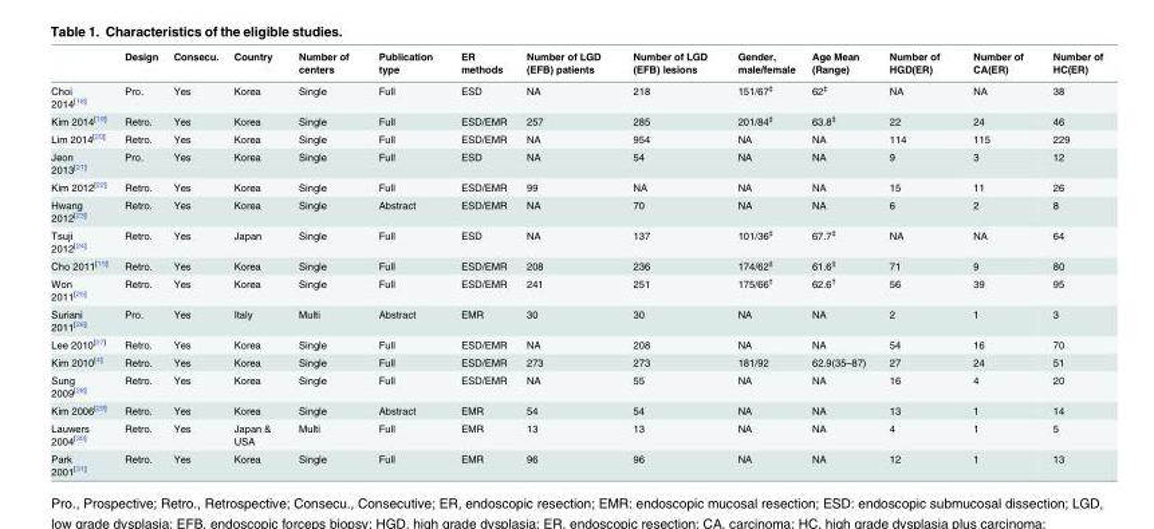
<table><thead><tr><td></td><td>Design</td><td>Consecu.</td><td>Country</td><td>Number of centers</td><td>Publication type</td><td>ER methods</td><td>Number of LGD (EFB) patients</td><td>Number of LGD (EFB) lesions</td><td>Gender, male/female</td><td>Age Mean (Range)</td><td>Number of HGD(ER)</td><td>Number of CA(ER)</td><td>Number of HC(ER)</td></tr></thead><tbody><tr><td>Choi 2014<sup>[18]</sup></td><td>Pro.</td><td>Yes</td><td>Korea</td><td>Single</td><td>Full</td><td>ESD</td><td>NA</td><td>218</td><td>151/67<sup>‡</sup></td><td>62<sup>‡</sup></td><td>NA</td><td>NA</td><td>38</td></tr><tr><td>Kim 2014<sup>[19]</sup></td><td>Retro.</td><td>Yes</td><td>Korea</td><td>Single</td><td>Full</td><td>ESD/EMR</td><td>257</td><td>285</td><td>201/84<sup>‡</sup></td><td>63.8<sup>‡</sup></td><td>22</td><td>24</td><td>46</td></tr><tr><td>Lim 2014<sup>[20]</sup></td><td>Retro.</td><td>Yes</td><td>Korea</td><td>Single</td><td>Full</td><td>ESD/EMR</td><td>NA</td><td>954</td><td>NA</td><td>NA</td><td>114</td><td>115</td><td>229</td></tr><tr><td>Jeon 2013<sup>[21]</sup></td><td>Pro.</td><td>Yes</td><td>Korea</td><td>Single</td><td>Full</td><td>ESD</td><td>NA</td><td>54</td><td>NA</td><td>NA</td><td>9</td><td>3</td><td>12</td></tr><tr><td>Kim 2012<sup>[22]</sup></td><td>Retro.</td><td>Yes</td><td>Korea</td><td>Single</td><td>Full</td><td>ESD/EMR</td><td>99</td><td>NA</td><td>NA</td><td>NA</td><td>15</td><td>11</td><td>26</td></tr><tr><td>Hwang 2012<sup>[23]</sup></td><td>Retro.</td><td>Yes</td><td>Korea</td><td>Single</td><td>Abstract</td><td>ESD/EMR</td><td>NA</td><td>70</td><td>NA</td><td>NA</td><td>6</td><td>2</td><td>8</td></tr><tr><td>Tsuji 2012<sup>[24]</sup></td><td>Retro.</td><td>Yes</td><td>Japan</td><td>Single</td><td>Full</td><td>ESD</td><td>NA</td><td>137</td><td>101/36<sup>‡</sup></td><td>67.7<sup>‡</sup></td><td>NA</td><td>NA</td><td>64</td></tr><tr><td>Cho 2011<sup>[15]</sup></td><td>Retro.</td><td>Yes</td><td>Korea</td><td>Single</td><td>Full</td><td>ESD/EMR</td><td>208</td><td>236</td><td>174/62<sup>‡</sup></td><td>61.6<sup>‡</sup></td><td>71</td><td>9</td><td>80</td></tr><tr><td>Won 2011<sup>[25]</sup></td><td>Retro.</td><td>Yes</td><td>Korea</td><td>Single</td><td>Full</td><td>ESD/EMR</td><td>241</td><td>251</td><td>175/66<sup>†</sup></td><td>62.6<sup>†</sup></td><td>56</td><td>39</td><td>95</td></tr><tr><td>Suriani 2011<sup>[26]</sup></td><td>Pro.</td><td>Yes</td><td>Italy</td><td>Multi</td><td>Abstract</td><td>EMR</td><td>30</td><td>30</td><td>NA</td><td>NA</td><td>2</td><td>1</td><td>3</td></tr><tr><td>Lee 2010<sup>[27]</sup></td><td>Retro.</td><td>Yes</td><td>Korea</td><td>Single</td><td>Full</td><td>ESD/EMR</td><td>NA</td><td>208</td><td>NA</td><td>NA</td><td>54</td><td>16</td><td>70</td></tr><tr><td>Kim 2010<sup>[4]</sup></td><td>Retro.</td><td>Yes</td><td>Korea</td><td>Single</td><td>Full</td><td>ESD/EMR</td><td>273</td><td>273</td><td>181/92</td><td>62.9(35–87)</td><td>27</td><td>24</td><td>51</td></tr><tr><td>Sung 2009<sup>[28]</sup></td><td>Retro.</td><td>Yes</td><td>Korea</td><td>Single</td><td>Full</td><td>ESD/EMR</td><td>NA</td><td>55</td><td>NA</td><td>NA</td><td>16</td><td>4</td><td>20</td></tr><tr><td>Kim 2006<sup>[29]</sup></td><td>Retro.</td><td>Yes</td><td>Korea</td><td>Single</td><td>Abstract</td><td>EMR</td><td>54</td><td>54</td><td>NA</td><td>NA</td><td>13</td><td>1</td><td>14</td></tr><tr><td>Lauwers 2004<sup>[30]</sup></td><td>Retro.</td><td>Yes</td><td>Japan &amp; USA</td><td>Multi</td><td>Full</td><td>EMR</td><td>13</td><td>13</td><td>NA</td><td>NA</td><td>4</td><td>1</td><td>5</td></tr><tr><td>Park 2001<sup>[31]</sup></td><td>Retro.</td><td>Yes</td><td>Korea</td><td>Single</td><td>Full</td><td>EMR</td><td>96</td><td>96</td><td>NA</td><td>NA</td><td>12</td><td>1</td><td>13</td></tr></tbody></table>